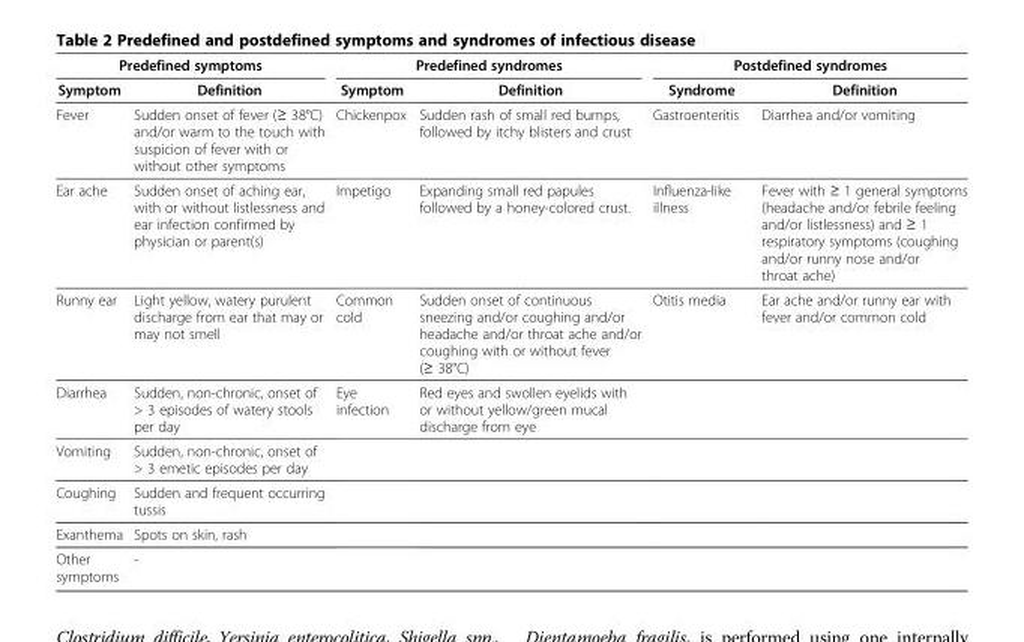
<table><thead><tr><td colspan="2">Predefined symptoms</td><td colspan="2">Predefined syndromes</td><td colspan="2">Postdefined syndromes</td></tr><tr><td>Symptom</td><td>Definition</td><td>Symptom</td><td>Definition</td><td>Syndrome</td><td>Definition</td></tr></thead><tbody><tr><td>Fever</td><td>Sudden onset of fever (≥ 38°C) and/or warm to the touch with suspicion of fever with or without other symptoms</td><td>Chickenpox</td><td>Sudden rash of small red bumps, followed by itchy blisters and crust</td><td>Gastroenteritis</td><td>Diarrhea and/or vomiting</td></tr><tr><td>Ear ache</td><td>Sudden onset of aching ear, with or without listlessness and ear infection confirmed by physician or parent(s)</td><td>Impetigo</td><td>Expanding small red papules followed by a honey-colored crust.</td><td>Influenza-like illness</td><td>Fever with ≥ 1 general symptoms (headache and/or febrile feeling and/or listlessness) and ≥ 1 respiratory symptoms (coughing and/or runny nose and/or throat ache)</td></tr><tr><td>Runny ear</td><td>Light yellow, watery purulent discharge from ear that may or may not smell</td><td>Common cold</td><td>Sudden onset of continuous sneezing and/or coughing and/or headache and/or throat ache and/or coughing with or without fever (≥ 38°C)</td><td>Otitis media</td><td>Ear ache and/or runny ear with fever and/or common cold</td></tr><tr><td>Diarrhea</td><td>Sudden, non-chronic, onset of &gt; 3 episodes of watery stools per day</td><td>Eye infection</td><td>Red eyes and swollen eyelids with or without yellow/green mucal discharge from eye</td><td></td><td></td></tr><tr><td>Vomiting</td><td>Sudden, non-chronic, onset of &gt; 3 emetic episodes per day</td><td></td><td></td><td></td><td></td></tr><tr><td>Coughing</td><td>Sudden and frequent occurring tussis</td><td></td><td></td><td></td><td></td></tr><tr><td>Exanthema</td><td>Spots on skin, rash</td><td></td><td></td><td></td><td></td></tr><tr><td>Other symptoms</td><td>-</td><td></td><td></td><td></td><td></td></tr></tbody></table>